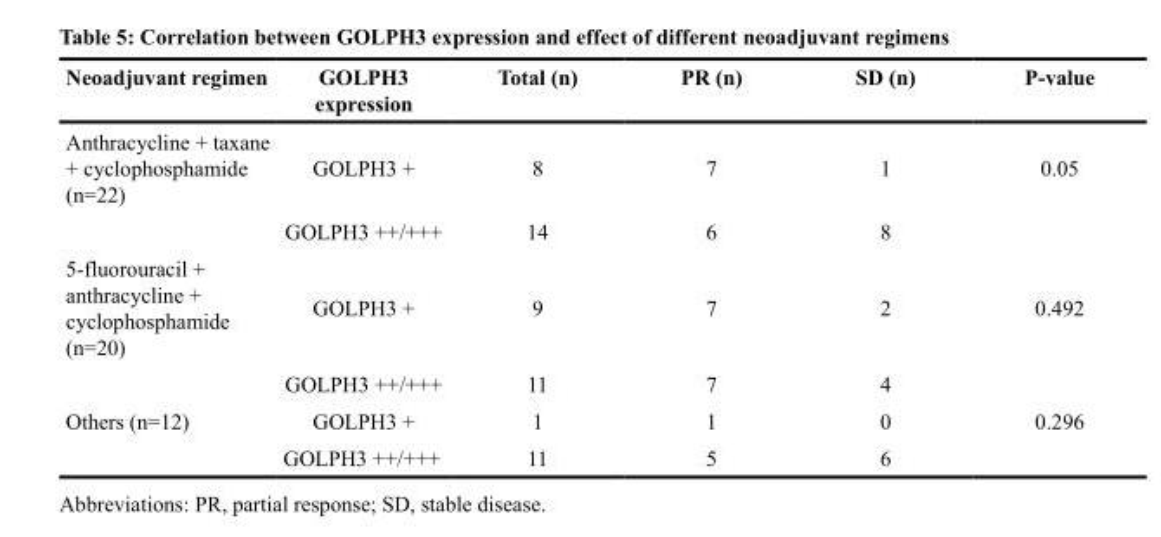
<table><thead><tr><td>Neoadjuvant regimen</td><td>GOLPH3 expression</td><td>Total (n)</td><td>PR (n)</td><td>SD (n)</td><td>P-value</td></tr></thead><tbody><tr><td rowspan="2">Anthracycline + taxane + cyclophosphamide (n=22)</td><td>GOLPH3 +</td><td>8</td><td>7</td><td>1</td><td>0.05</td></tr><tr><td>GOLPH3 ++/+++</td><td>14</td><td>6</td><td>8</td><td></td></tr><tr><td rowspan="2">5-fluorouracil + anthracycline + cyclophosphamide (n=20)</td><td>GOLPH3 +</td><td>9</td><td>7</td><td>2</td><td>0.492</td></tr><tr><td>GOLPH3 ++/+++</td><td>11</td><td>7</td><td>4</td><td></td></tr><tr><td rowspan="2">Others (n=12)</td><td>GOLPH3 +</td><td>1</td><td>1</td><td>0</td><td>0.296</td></tr><tr><td>GOLPH3 ++/+++</td><td>11</td><td>5</td><td>6</td><td></td></tr></tbody></table>